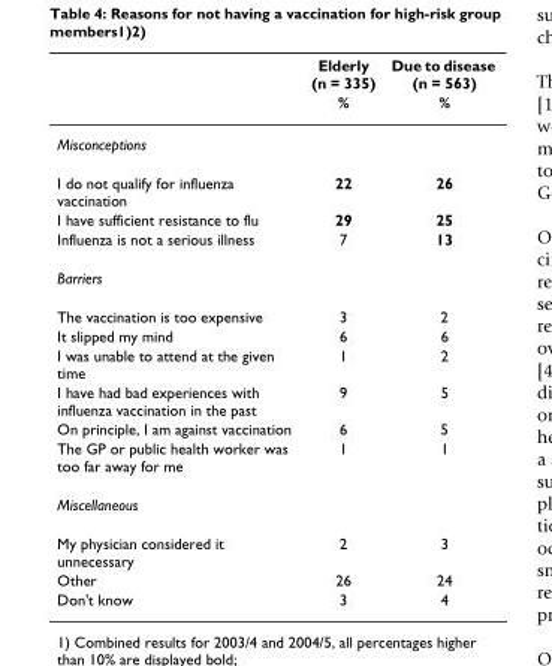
<table><thead><tr><td rowspan="2"></td><td rowspan="2">Elderly (n = 335) %</td><td rowspan="2">Due to disease (n = 563) %</td></tr><tr></tr></thead><tbody><tr><td colspan="3">Misconceptions</td></tr><tr><td>I do not qualify for influenza vaccination</td><td>22</td><td>26</td></tr><tr><td>I have sufficient resistance to flu</td><td>29</td><td>25</td></tr><tr><td>Influenza is not a serious illness</td><td>7</td><td>13</td></tr><tr><td colspan="3">Barriers</td></tr><tr><td>The vaccination is too expensive</td><td>3</td><td>2</td></tr><tr><td>It slipped my mind</td><td>6</td><td>6</td></tr><tr><td>I was unable to attend at the given time</td><td>1</td><td>2</td></tr><tr><td>I have had bad experiences with influenza vaccination in the past</td><td>9</td><td>5</td></tr><tr><td>On principle, I am against vaccination</td><td>6</td><td>5</td></tr><tr><td>The GP or public health worker was too far away for me</td><td>1</td><td>1</td></tr><tr><td colspan="3">Miscellaneous</td></tr><tr><td>My physician considered it unnecessary</td><td>2</td><td>3</td></tr><tr><td>Other</td><td>26</td><td>24</td></tr><tr><td>Don&#x27;t know</td><td>3</td><td>4</td></tr></tbody></table>